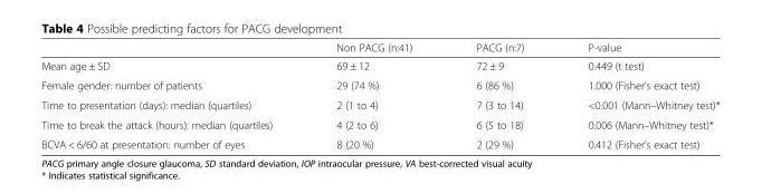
<table><thead><tr><td></td><td>Non PACG (n:41)</td><td>PACG (n:7)</td><td>P-value</td></tr></thead><tbody><tr><td>Mean age ± SD</td><td>69 ± 12</td><td>72 ± 9</td><td>0.449 (t test)</td></tr><tr><td>Female gender: number of patients</td><td>29 (74 %)</td><td>6 (86 %)</td><td>1.000 (Fisher’s exact test)</td></tr><tr><td>Time to presentation (days): median (quartiles)</td><td>2 (1 to 4)</td><td>7 (3 to 14)</td><td>&lt;0.001 (Mann–Whitney test)*</td></tr><tr><td>Time to break the attack (hours): median (quartiles)</td><td>4 (2 to 6)</td><td>6 (5 to 18)</td><td>0.006 (Mann–Whitney test)*</td></tr><tr><td>BCVA &lt; 6/60 at presentation: number of eyes</td><td>8 (20 %)</td><td>2 (29 %)</td><td>0.412 (Fisher’s exact test)</td></tr></tbody></table>